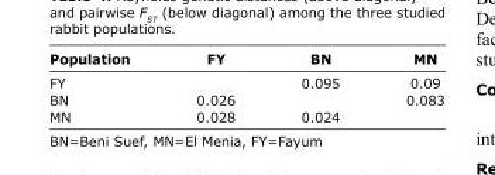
<table><thead><tr><td>Population</td><td>FY</td><td>BN</td><td>MN</td></tr></thead><tbody><tr><td>FY</td><td></td><td>0.095</td><td>0.09</td></tr><tr><td>BN</td><td>0.026</td><td></td><td>0.083</td></tr><tr><td>MN</td><td>0.028</td><td>0.024</td><td></td></tr></tbody></table>